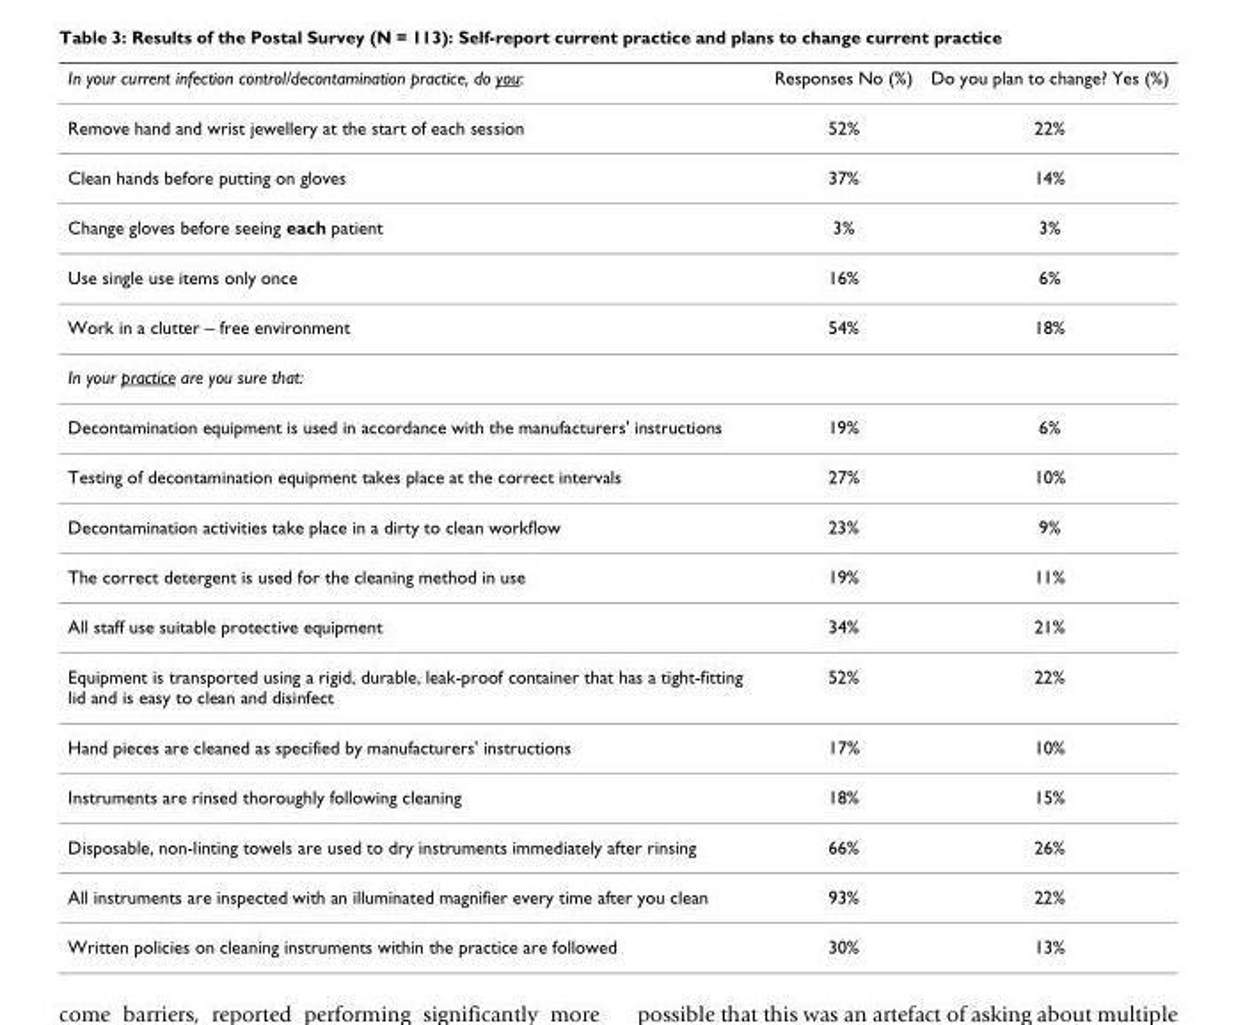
<table><thead><tr><td>In your current infection control/decontamination practice, do you:</td><td>Responses No (%)</td><td>Do you plan to change? Yes (%)</td></tr></thead><tbody><tr><td>Remove hand and wrist jewellery at the start of each session</td><td>52%</td><td>22%</td></tr><tr><td>Clean hands before putting on gloves</td><td>37%</td><td>14%</td></tr><tr><td>Change gloves before seeing each patient</td><td>3%</td><td>3%</td></tr><tr><td>Use single use items only once</td><td>16%</td><td>6%</td></tr><tr><td>Work in a clutter – free environment</td><td>54%</td><td>18%</td></tr><tr><td colspan="3">In your practice are you sure that:</td></tr><tr><td>Decontamination equipment is used in accordance with the manufacturers&#x27; instructions</td><td>19%</td><td>6%</td></tr><tr><td>Testing of decontamination equipment takes place at the correct intervals</td><td>27%</td><td>10%</td></tr><tr><td>Decontamination activities take place in a dirty to clean workflow</td><td>23%</td><td>9%</td></tr><tr><td>The correct detergent is used for the cleaning method in use</td><td>19%</td><td>11%</td></tr><tr><td>All staff use suitable protective equipment</td><td>34%</td><td>21%</td></tr><tr><td>Equipment is transported using a rigid, durable, leak-proof container that has a tight-fitting lid and is easy to clean and disinfect</td><td>52%</td><td>22%</td></tr><tr><td>Hand pieces are cleaned as specified by manufacturers&#x27; instructions</td><td>17%</td><td>10%</td></tr><tr><td>Instruments are rinsed thoroughly following cleaning</td><td>18%</td><td>15%</td></tr><tr><td>Disposable, non-linting towels are used to dry instruments immediately after rinsing</td><td>66%</td><td>26%</td></tr><tr><td>All instruments are inspected with an illuminated magnifier every time after you clean</td><td>93%</td><td>22%</td></tr><tr><td>Written policies on cleaning instruments within the practice are followed</td><td>30%</td><td>13%</td></tr></tbody></table>